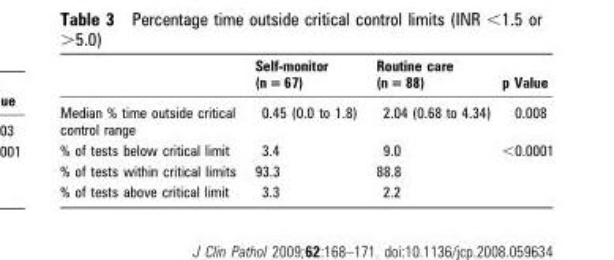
<table><thead><tr><td></td><td>Self-monitor (n = 67)</td><td>Routine care (n = 88)</td><td>p Value</td></tr></thead><tbody><tr><td>Median % time outside critical control range</td><td>0.45 (0.0 to 1.8)</td><td>2.04 (0.68 to 4.34)</td><td>0.008</td></tr><tr><td>% of tests below critical limit</td><td>3.4</td><td>9.0</td><td>&lt;0.0001</td></tr><tr><td>% of tests within critical limits</td><td>93.3</td><td>88.8</td><td></td></tr><tr><td>% of tests above critical limit</td><td>3.3</td><td>2.2</td><td></td></tr></tbody></table>